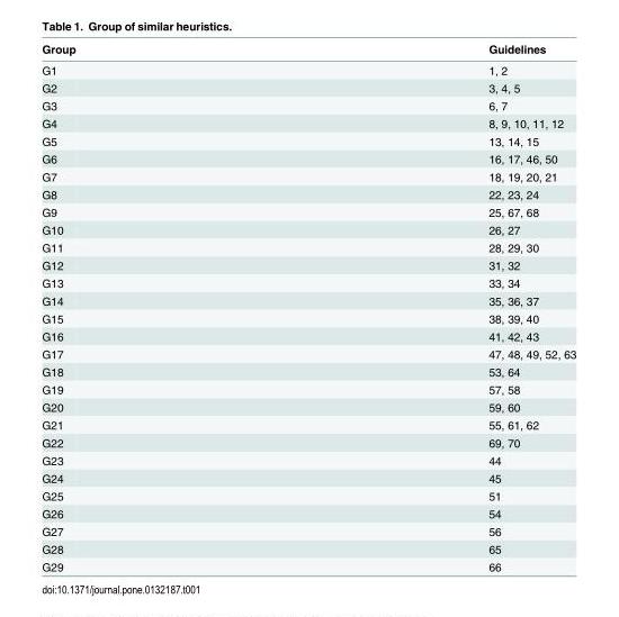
<table><thead><tr><td>Group</td><td>Guidelines</td></tr></thead><tbody><tr><td>G1</td><td>1, 2</td></tr><tr><td>G2</td><td>3, 4, 5</td></tr><tr><td>G3</td><td>6, 7</td></tr><tr><td>G4</td><td>8, 9, 10, 11, 12</td></tr><tr><td>G5</td><td>13, 14, 15</td></tr><tr><td>G6</td><td>16, 17, 46, 50</td></tr><tr><td>G7</td><td>18, 19, 20, 21</td></tr><tr><td>G8</td><td>22, 23, 24</td></tr><tr><td>G9</td><td>25, 67, 68</td></tr><tr><td>G10</td><td>26, 27</td></tr><tr><td>G11</td><td>28, 29, 30</td></tr><tr><td>G12</td><td>31, 32</td></tr><tr><td>G13</td><td>33, 34</td></tr><tr><td>G14</td><td>35, 36, 37</td></tr><tr><td>G15</td><td>38, 39, 40</td></tr><tr><td>G16</td><td>41, 42, 43</td></tr><tr><td>G17</td><td>47, 48, 49, 52, 63</td></tr><tr><td>G18</td><td>53, 64</td></tr><tr><td>G19</td><td>57, 58</td></tr><tr><td>G20</td><td>59, 60</td></tr><tr><td>G21</td><td>55, 61, 62</td></tr><tr><td>G22</td><td>69, 70</td></tr><tr><td>G23</td><td>44</td></tr><tr><td>G24</td><td>45</td></tr><tr><td>G25</td><td>51</td></tr><tr><td>G26</td><td>54</td></tr><tr><td>G27</td><td>56</td></tr><tr><td>G28</td><td>65</td></tr><tr><td>G29</td><td>66</td></tr></tbody></table>